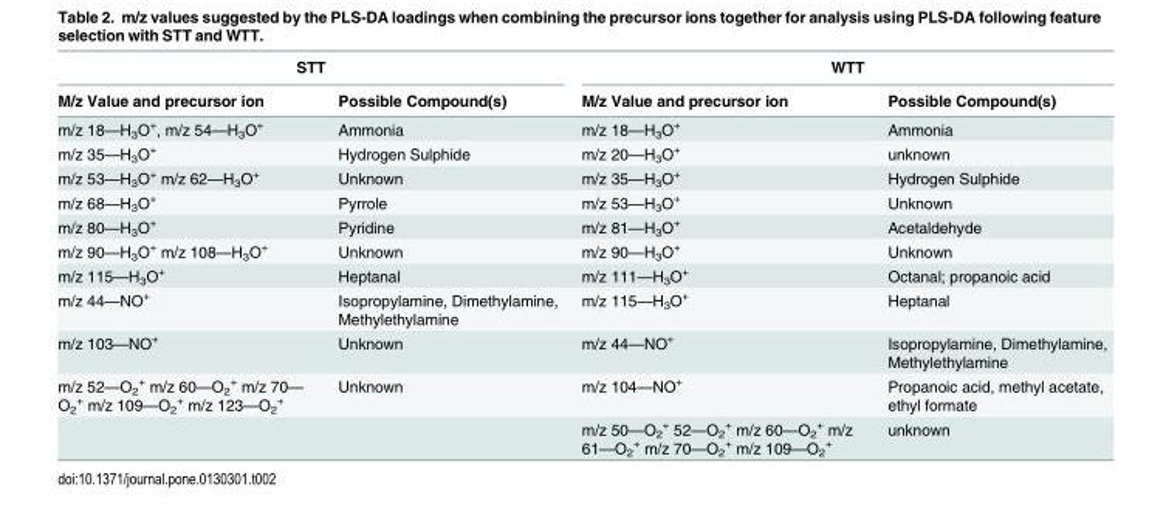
<table><thead><tr><td colspan="2">STT</td><td colspan="2">WTT</td></tr><tr><td>M/z Value and precursor ion</td><td>Possible Compound(s)</td><td>M/z Value and precursor ion</td><td>Possible Compound(s)</td></tr></thead><tbody><tr><td>m/z 18—H<sub>3</sub>O<sup>+</sup>, m/z 54—H<sub>3</sub>O<sup>+</sup></td><td>Ammonia</td><td>m/z 18—H<sub>3</sub>O<sup>+</sup></td><td>Ammonia</td></tr><tr><td>m/z 35—H<sub>3</sub>O<sup>+</sup></td><td>Hydrogen Sulphide</td><td>m/z 20—H<sub>3</sub>O<sup>+</sup></td><td>unknown</td></tr><tr><td>m/z 53—H<sub>3</sub>O<sup>+</sup> m/z 62—H<sub>3</sub>O<sup>+</sup></td><td>Unknown</td><td>m/z 35—H<sub>3</sub>O<sup>+</sup></td><td>Hydrogen Sulphide</td></tr><tr><td>m/z 68—H<sub>3</sub>O<sup>+</sup></td><td>Pyrrole</td><td>m/z 53—H<sub>3</sub>O<sup>+</sup></td><td>Unknown</td></tr><tr><td>m/z 80—H<sub>3</sub>O<sup>+</sup></td><td>Pyridine</td><td>m/z 81—H<sub>3</sub>O<sup>+</sup></td><td>Acetaldehyde</td></tr><tr><td>m/z 90—H<sub>3</sub>O<sup>+</sup> m/z 108—H<sub>3</sub>O<sup>+</sup></td><td>Unknown</td><td>m/z 90—H<sub>3</sub>O<sup>+</sup></td><td>Unknown</td></tr><tr><td>m/z 115—H<sub>3</sub>O<sup>+</sup></td><td>Heptanal</td><td>m/z 111—H<sub>3</sub>O<sup>+</sup></td><td>Octanal; propanoic acid</td></tr><tr><td>m/z 44—NO<sup>+</sup></td><td>Isopropylamine, Dimethylamine, Methylethylamine</td><td>m/z 115—H<sub>3</sub>O<sup>+</sup></td><td>Heptanal</td></tr><tr><td>m/z 103—NO<sup>+</sup></td><td>Unknown</td><td>m/z 44—NO<sup>+</sup></td><td>Isopropylamine, Dimethylamine, Methylethylamine</td></tr><tr><td rowspan="2">m/z 52—O<sub>2</sub> <sup>+</sup> m/z 60—O<sub>2</sub> <sup>+</sup> m/z 70— O<sub>2</sub> <sup>+</sup> m/z 109—O<sub>2</sub> <sup>+</sup> m/z 123—O<sub>2</sub> <sup>+</sup></td><td>Unknown</td><td>m/z 104—NO<sup>+</sup></td><td>Propanoic acid, methyl acetate, ethyl formate</td></tr><tr><td></td><td>m/z 50—O<sub>2</sub> <sup>+</sup> 52—O<sub>2</sub> <sup>+</sup> m/z 60—O<sub>2</sub> <sup>+</sup> m/z 61—O<sub>2</sub> <sup>+</sup> m/z 70—O<sub>2</sub> <sup>+</sup> m/z 109—O<sub>2</sub> <sup>+</sup></td><td>unknown</td></tr></tbody></table>